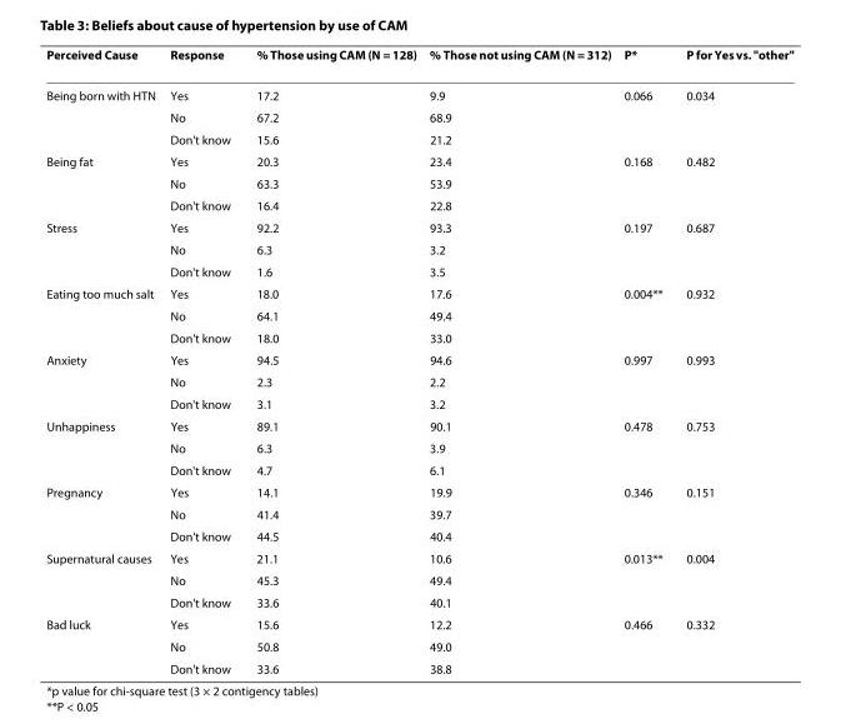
<table><thead><tr><td>Perceived Cause</td><td>Response</td><td>% Those using CAM (N = 128)</td><td>% Those not using CAM (N = 312)</td><td>P*</td><td>P for Yes vs. &quot;other&quot;</td></tr></thead><tbody><tr><td rowspan="3">Being born with HTN</td><td>Yes</td><td>17.2</td><td>9.9</td><td>0.066</td><td>0.034</td></tr><tr><td>No</td><td>67.2</td><td>68.9</td><td></td><td></td></tr><tr><td>Don&#x27;t know</td><td>15.6</td><td>21.2</td><td></td><td></td></tr><tr><td rowspan="3">Being fat</td><td>Yes</td><td>20.3</td><td>23.4</td><td>0.168</td><td>0.482</td></tr><tr><td>No</td><td>63.3</td><td>53.9</td><td></td><td></td></tr><tr><td>Don&#x27;t know</td><td>16.4</td><td>22.8</td><td></td><td></td></tr><tr><td rowspan="3">Stress</td><td>Yes</td><td>92.2</td><td>93.3</td><td>0.197</td><td>0.687</td></tr><tr><td>No</td><td>6.3</td><td>3.2</td><td></td><td></td></tr><tr><td>Don&#x27;t know</td><td>1.6</td><td>3.5</td><td></td><td></td></tr><tr><td rowspan="3">Eating too much salt</td><td>Yes</td><td>18.0</td><td>17.6</td><td>0.004**</td><td>0.932</td></tr><tr><td>No</td><td>64.1</td><td>49.4</td><td></td><td></td></tr><tr><td>Don&#x27;t know</td><td>18.0</td><td>33.0</td><td></td><td></td></tr><tr><td rowspan="3">Anxiety</td><td>Yes</td><td>94.5</td><td>94.6</td><td>0.997</td><td>0.993</td></tr><tr><td>No</td><td>2.3</td><td>2.2</td><td></td><td></td></tr><tr><td>Don&#x27;t know</td><td>3.1</td><td>3.2</td><td></td><td></td></tr><tr><td rowspan="3">Unhappiness</td><td>Yes</td><td>89.1</td><td>90.1</td><td>0.478</td><td>0.753</td></tr><tr><td>No</td><td>6.3</td><td>3.9</td><td></td><td></td></tr><tr><td>Don&#x27;t know</td><td>4.7</td><td>6.1</td><td></td><td></td></tr><tr><td rowspan="3">Pregnancy</td><td>Yes</td><td>14.1</td><td>19.9</td><td>0.346</td><td>0.151</td></tr><tr><td>No</td><td>41.4</td><td>39.7</td><td></td><td></td></tr><tr><td>Don&#x27;t know</td><td>44.5</td><td>40.4</td><td></td><td></td></tr><tr><td rowspan="3">Supernatural causes</td><td>Yes</td><td>21.1</td><td>10.6</td><td>0.013**</td><td>0.004</td></tr><tr><td>No</td><td>45.3</td><td>49.4</td><td></td><td></td></tr><tr><td>Don&#x27;t know</td><td>33.6</td><td>40.1</td><td></td><td></td></tr><tr><td rowspan="3">Bad luck</td><td>Yes</td><td>15.6</td><td>12.2</td><td>0.466</td><td>0.332</td></tr><tr><td>No</td><td>50.8</td><td>49.0</td><td></td><td></td></tr><tr><td>Don&#x27;t know</td><td>33.6</td><td>38.8</td><td></td><td></td></tr></tbody></table>